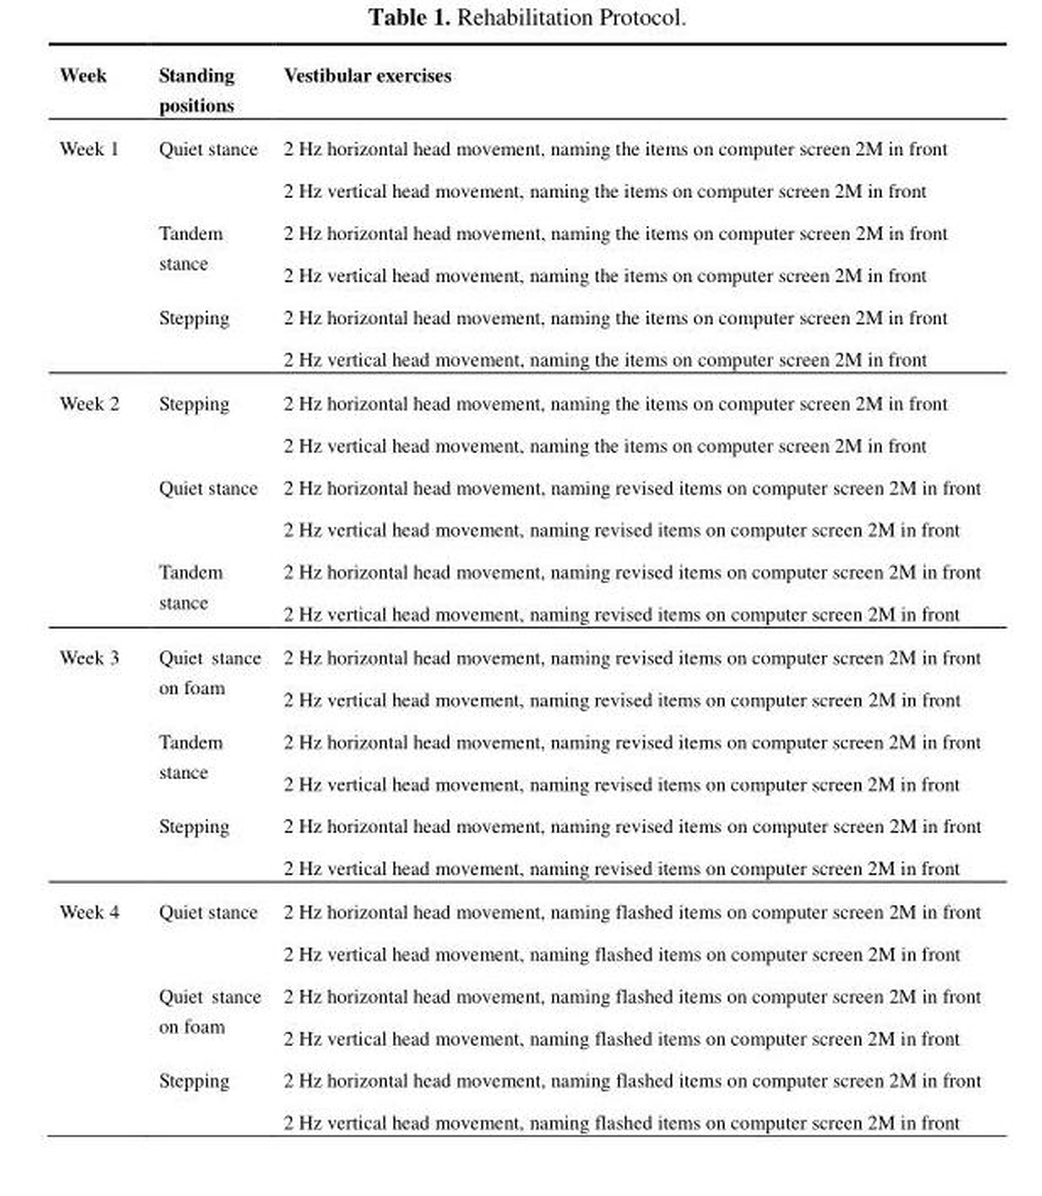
<table><thead><tr><td>Week</td><td>Standing positions</td><td>Vestibular exercises</td></tr></thead><tbody><tr><td rowspan="6">Week 1</td><td rowspan="2">Quiet stance</td><td>2 Hz horizontal head movement, naming the items on computer screen 2M in front</td></tr><tr><td>2 Hz vertical head movement, naming the items on computer screen 2M in front</td></tr><tr><td rowspan="2">Tandem stance</td><td>2 Hz horizontal head movement, naming the items on computer screen 2M in front</td></tr><tr><td>2 Hz vertical head movement, naming the items on computer screen 2M in front</td></tr><tr><td rowspan="2">Stepping</td><td>2 Hz horizontal head movement, naming the items on computer screen 2M in front</td></tr><tr><td>2 Hz vertical head movement, naming the items on computer screen 2M in front</td></tr><tr><td rowspan="6">Week 2</td><td rowspan="2">Stepping</td><td>2 Hz horizontal head movement, naming the items on computer screen 2M in front</td></tr><tr><td>2 Hz vertical head movement, naming the items on computer screen 2M in front</td></tr><tr><td rowspan="2">Quiet stance</td><td>2 Hz horizontal head movement, naming revised items on computer screen 2M in front</td></tr><tr><td>2 Hz vertical head movement, naming revised items on computer screen 2M in front</td></tr><tr><td rowspan="2">Tandem stance</td><td>2 Hz horizontal head movement, naming revised items on computer screen 2M in front</td></tr><tr><td>2 Hz vertical head movement, naming revised items on computer screen 2M in front</td></tr><tr><td rowspan="6">Week 3</td><td rowspan="2">Quiet stance on foam</td><td>2 Hz horizontal head movement, naming revised items on computer screen 2M in front</td></tr><tr><td>2 Hz vertical head movement, naming revised items on computer screen 2M in front</td></tr><tr><td rowspan="2">Tandem stance</td><td>2 Hz horizontal head movement, naming revised items on computer screen 2M in front</td></tr><tr><td>2 Hz vertical head movement, naming revised items on computer screen 2M in front</td></tr><tr><td rowspan="2">Stepping</td><td>2 Hz horizontal head movement, naming revised items on computer screen 2M in front</td></tr><tr><td>2 Hz vertical head movement, naming revised items on computer screen 2M in front</td></tr><tr><td rowspan="6">Week 4</td><td rowspan="2">Quiet stance</td><td>2 Hz horizontal head movement, naming flashed items on computer screen 2M in front</td></tr><tr><td>2 Hz vertical head movement, naming flashed items on computer screen 2M in front</td></tr><tr><td rowspan="2">Quiet stance on foam</td><td>2 Hz horizontal head movement, naming flashed items on computer screen 2M in front</td></tr><tr><td>2 Hz vertical head movement, naming flashed items on computer screen 2M in front</td></tr><tr><td rowspan="2">Stepping</td><td>2 Hz horizontal head movement, naming flashed items on computer screen 2M in front</td></tr><tr><td>2 Hz vertical head movement, naming flashed items on computer screen 2M in front</td></tr></tbody></table>